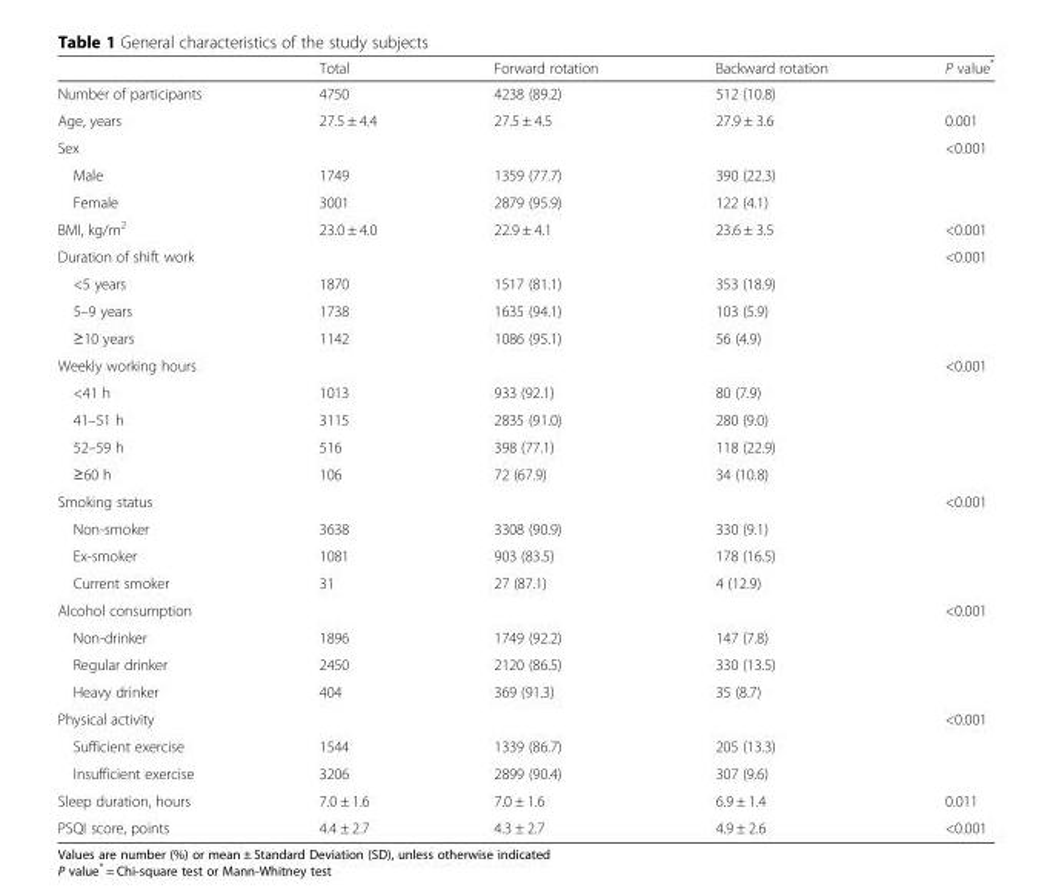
<table><thead><tr><td></td><td>Total</td><td>Forward rotation</td><td>Backward rotation</td><td>P value*</td></tr></thead><tbody><tr><td>Number of participants</td><td>4750</td><td>4238 (89.2)</td><td>512 (10.8)</td><td></td></tr><tr><td>Age, years</td><td>27.5 ± 4.4</td><td>27.5 ± 4.5</td><td>27.9 ± 3.6</td><td>0.001</td></tr><tr><td>Sex</td><td></td><td></td><td></td><td>&lt;0.001</td></tr><tr><td>Male</td><td>1749</td><td>1359 (77.7)</td><td>390 (22.3)</td><td></td></tr><tr><td>Female</td><td>3001</td><td>2879 (95.9)</td><td>122 (4.1)</td><td></td></tr><tr><td>BMI, kg/m<sup>2</sup></td><td>23.0 ± 4.0</td><td>22.9 ± 4.1</td><td>23.6 ± 3.5</td><td>&lt;0.001</td></tr><tr><td>Duration of shift work</td><td></td><td></td><td></td><td>&lt;0.001</td></tr><tr><td>&lt;5 years</td><td>1870</td><td>1517 (81.1)</td><td>353 (18.9)</td><td></td></tr><tr><td>5–9 years</td><td>1738</td><td>1635 (94.1)</td><td>103 (5.9)</td><td></td></tr><tr><td>≥10 years</td><td>1142</td><td>1086 (95.1)</td><td>56 (4.9)</td><td></td></tr><tr><td>Weekly working hours</td><td></td><td></td><td></td><td>&lt;0.001</td></tr><tr><td>&lt;41 h</td><td>1013</td><td>933 (92.1)</td><td>80 (7.9)</td><td></td></tr><tr><td>41–51 h</td><td>3115</td><td>2835 (91.0)</td><td>280 (9.0)</td><td></td></tr><tr><td>52–59 h</td><td>516</td><td>398 (77.1)</td><td>118 (22.9)</td><td></td></tr><tr><td>≥60 h</td><td>106</td><td>72 (67.9)</td><td>34 (10.8)</td><td></td></tr><tr><td>Smoking status</td><td></td><td></td><td></td><td>&lt;0.001</td></tr><tr><td>Non-smoker</td><td>3638</td><td>3308 (90.9)</td><td>330 (9.1)</td><td></td></tr><tr><td>Ex-smoker</td><td>1081</td><td>903 (83.5)</td><td>178 (16.5)</td><td></td></tr><tr><td>Current smoker</td><td>31</td><td>27 (87.1)</td><td>4 (12.9)</td><td></td></tr><tr><td>Alcohol consumption</td><td></td><td></td><td></td><td>&lt;0.001</td></tr><tr><td>Non-drinker</td><td>1896</td><td>1749 (92.2)</td><td>147 (7.8)</td><td></td></tr><tr><td>Regular drinker</td><td>2450</td><td>2120 (86.5)</td><td>330 (13.5)</td><td></td></tr><tr><td>Heavy drinker</td><td>404</td><td>369 (91.3)</td><td>35 (8.7)</td><td></td></tr><tr><td>Physical activity</td><td></td><td></td><td></td><td>&lt;0.001</td></tr><tr><td>Sufficient exercise</td><td>1544</td><td>1339 (86.7)</td><td>205 (13.3)</td><td></td></tr><tr><td>Insufficient exercise</td><td>3206</td><td>2899 (90.4)</td><td>307 (9.6)</td><td></td></tr><tr><td>Sleep duration, hours</td><td>7.0 ± 1.6</td><td>7.0 ± 1.6</td><td>6.9 ± 1.4</td><td>0.011</td></tr><tr><td>PSQI score, points</td><td>4.4 ± 2.7</td><td>4.3 ± 2.7</td><td>4.9 ± 2.6</td><td>&lt;0.001</td></tr></tbody></table>